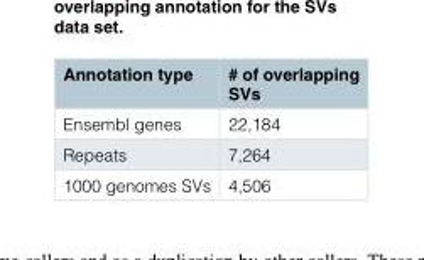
<table><thead><tr><td>Annotation type</td><td># of overlapping SVs</td></tr></thead><tbody><tr><td>Ensembl genes</td><td>22,184</td></tr><tr><td>Repeats</td><td>7,264</td></tr><tr><td>1000 genomes SVs</td><td>4,506</td></tr></tbody></table>